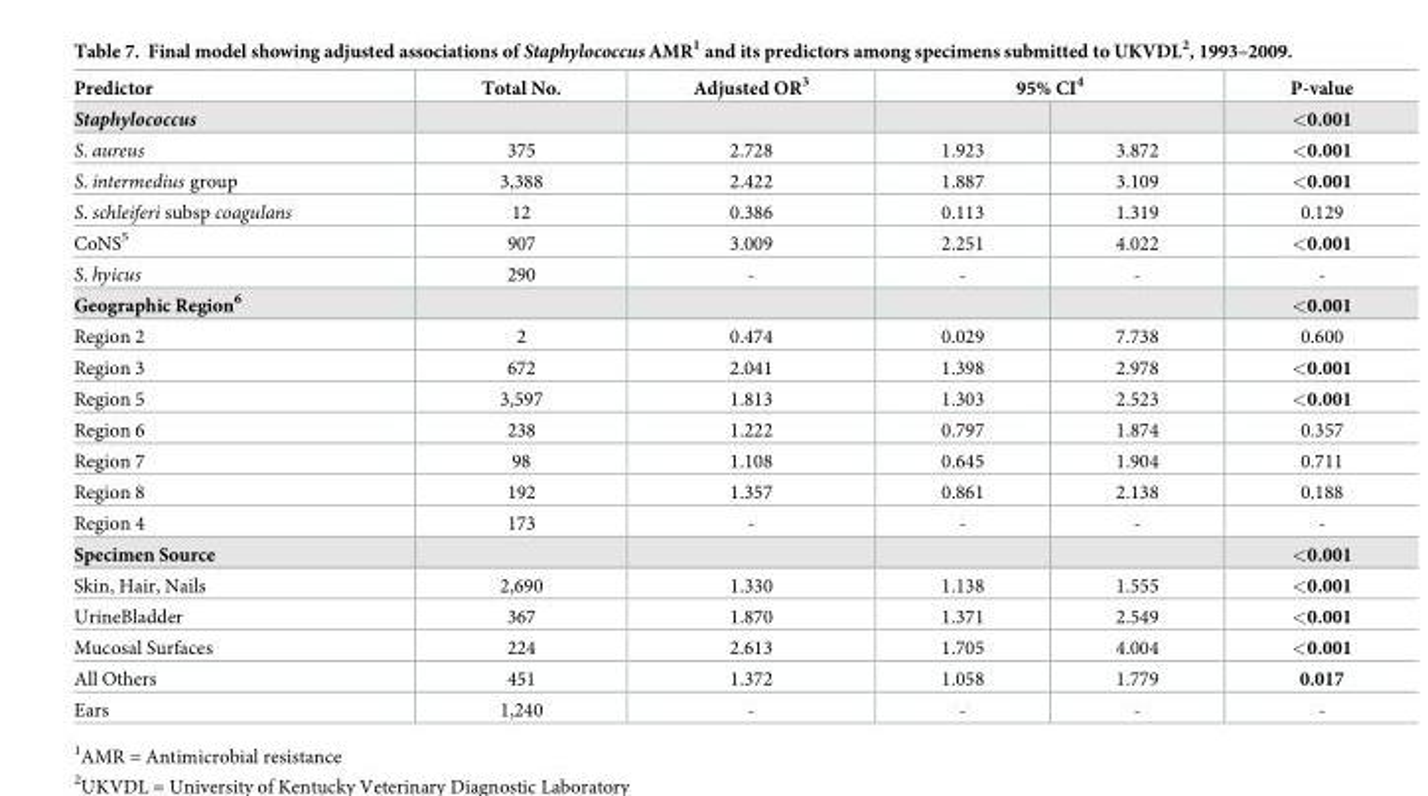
<table><thead><tr><td rowspan="2">Predictor Staphylococcus</td><td rowspan="2">Total No.</td><td rowspan="2">Adjusted OR<sup>3</sup></td><td colspan="2">95% CI<sup>4</sup></td><td rowspan="2">P-value &lt;0.001</td></tr><tr><td></td><td></td></tr></thead><tbody><tr><td>S. aureus</td><td>375</td><td>2.728</td><td>1.923</td><td>3.872</td><td>&lt;0.001</td></tr><tr><td>S. intermedius group</td><td>3,388</td><td>2.422</td><td>1.887</td><td>3.109</td><td>&lt;0.001</td></tr><tr><td>S. schleiferi subsp coagulans</td><td>12</td><td>0.386</td><td>0.113</td><td>1.319</td><td>0.129</td></tr><tr><td>CoNS<sup>5</sup></td><td>907</td><td>3.009</td><td>2.251</td><td>4.022</td><td>&lt;0.001</td></tr><tr><td>S. hyicus</td><td>290</td><td>-</td><td>-</td><td>-</td><td>-</td></tr><tr><td>Geographic Region<sup>6</sup></td><td></td><td></td><td></td><td></td><td>&lt;0.001</td></tr><tr><td>Region 2</td><td>2</td><td>0.474</td><td>0.029</td><td>7.738</td><td>0.600</td></tr><tr><td>Region 3</td><td>672</td><td>2.041</td><td>1.398</td><td>2.978</td><td>&lt;0.001</td></tr><tr><td>Region 5</td><td>3,597</td><td>1.813</td><td>1.303</td><td>2.523</td><td>&lt;0.001</td></tr><tr><td>Region 6</td><td>238</td><td>1.222</td><td>0.797</td><td>1.874</td><td>0.357</td></tr><tr><td>Region 7</td><td>98</td><td>1.108</td><td>0.645</td><td>1.904</td><td>0.711</td></tr><tr><td>Region 8</td><td>192</td><td>1.357</td><td>0.861</td><td>2.138</td><td>0.188</td></tr><tr><td>Region 4</td><td>173</td><td>-</td><td>-</td><td>-</td><td>-</td></tr><tr><td>Specimen Source</td><td></td><td></td><td></td><td></td><td>&lt;0.001</td></tr><tr><td>Skin, Hair, Nails</td><td>2,690</td><td>1.330</td><td>1.138</td><td>1.555</td><td>&lt;0.001</td></tr><tr><td>UrineBladder</td><td>367</td><td>1.870</td><td>1.371</td><td>2.549</td><td>&lt;0.001</td></tr><tr><td>Mucosal Surfaces</td><td>224</td><td>2.613</td><td>1.705</td><td>4.004</td><td>&lt;0.001</td></tr><tr><td>All Others</td><td>451</td><td>1.372</td><td>1.058</td><td>1.779</td><td>0.017</td></tr><tr><td>Ears</td><td>1,240</td><td>-</td><td>-</td><td>-</td><td>-</td></tr></tbody></table>